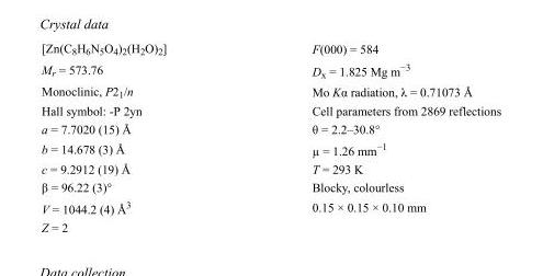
<table><tbody><tr><td>[Zn(C<sub>8</sub>H<sub>6</sub>N<sub>5</sub>O<sub>4</sub>)<sub>2</sub>(H<sub>2</sub>O)<sub>2</sub>]</td><td>F(000) = 584</td></tr><tr><td>M<sub>r</sub> = 573.76</td><td>D<sub>x</sub> = 1.825 Mg m<sup>−3</sup></td></tr><tr><td>Monoclinic, P2<sub>1</sub>/n</td><td>Mo Kα radiation, λ = 0.71073 Å</td></tr><tr><td>Hall symbol: -P 2yn</td><td>Cell parameters from 2869 reflections</td></tr><tr><td>a = 7.7020 (15) Å</td><td>θ = 2.2–30.8°</td></tr><tr><td>b = 14.678 (3) Å</td><td>µ = 1.26 mm<sup>−1</sup></td></tr><tr><td>c = 9.2912 (19) Å</td><td>T = 293 K</td></tr><tr><td>β = 96.22 (3)°</td><td>Blocky, colourless</td></tr><tr><td>V = 1044.2 (4) Å<sup>3</sup></td><td>0.15 × 0.15 × 0.10 mm</td></tr><tr><td>Z = 2</td><td></td></tr></tbody></table>